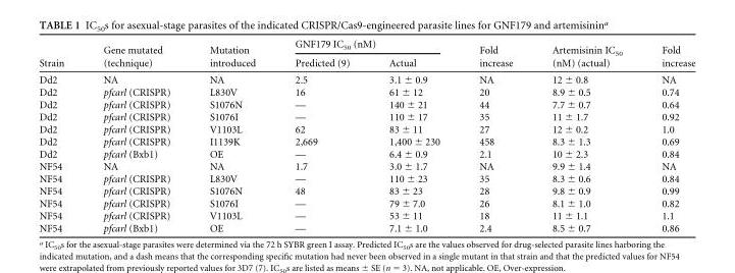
<table><thead><tr><td rowspan="2">Strain</td><td rowspan="2">Gene mutated (technique)</td><td rowspan="2">Mutation introduced</td><td colspan="2">GNF179 IC<sub>50</sub> (nM)</td><td rowspan="2">Fold increase</td><td rowspan="2">Artemisinin IC<sub>50</sub> (nM) (actual)</td><td rowspan="2">Fold increase</td></tr><tr><td>Predicted (9)</td><td>Actual</td></tr></thead><tbody><tr><td>Dd2</td><td>NA</td><td>NA</td><td>2.5</td><td>3.1 ± 0.9</td><td>NA</td><td>12 ± 0.8</td><td>NA</td></tr><tr><td>Dd2</td><td>pfcarl (CRISPR)</td><td>L830V</td><td>16</td><td>61 ± 12</td><td>20</td><td>8.9 ± 0.5</td><td>0.74</td></tr><tr><td>Dd2</td><td>pfcarl (CRISPR)</td><td>S1076N</td><td>—</td><td>140 ± 21</td><td>44</td><td>7.7 ± 0.7</td><td>0.64</td></tr><tr><td>Dd2</td><td>pfcarl (CRISPR)</td><td>S1076I</td><td>—</td><td>110 ± 17</td><td>35</td><td>11 ± 1.7</td><td>0.92</td></tr><tr><td>Dd2</td><td>pfcarl (CRISPR)</td><td>V1103L</td><td>62</td><td>83 ± 11</td><td>27</td><td>12 ± 0.2</td><td>1.0</td></tr><tr><td>Dd2</td><td>pfcarl (CRISPR)</td><td>I1139K</td><td>2,669</td><td>1,400 ± 230</td><td>458</td><td>8.3 ± 1.3</td><td>0.69</td></tr><tr><td>Dd2</td><td>pfcarl (Bxb1)</td><td>OE</td><td>—</td><td>6.4 ± 0.9</td><td>2.1</td><td>10 ± 2.3</td><td>0.84</td></tr><tr><td>NF54</td><td>NA</td><td>NA</td><td>1.7</td><td>3.0 ± 1.7</td><td>NA</td><td>9.9 ± 1.4</td><td>NA</td></tr><tr><td>NF54</td><td>pfcarl (CRISPR)</td><td>L830V</td><td>—</td><td>110 ± 23</td><td>35</td><td>8.3 ± 0.6</td><td>0.84</td></tr><tr><td>NF54</td><td>pfcarl (CRISPR)</td><td>S1076N</td><td>48</td><td>83 ± 23</td><td>28</td><td>9.8 ± 0.9</td><td>0.99</td></tr><tr><td>NF54</td><td>pfcarl (CRISPR)</td><td>S1076I</td><td>—</td><td>79 ± 7.0</td><td>26</td><td>8.1 ± 1.0</td><td>0.82</td></tr><tr><td>NF54</td><td>pfcarl (CRISPR)</td><td>V1103L</td><td>—</td><td>53 ± 11</td><td>18</td><td>11 ± 1.1</td><td>1.1</td></tr><tr><td>NF54</td><td>pfcarl (Bxb1)</td><td>OE</td><td>—</td><td>7.1 ± 1.0</td><td>2.4</td><td>8.5 ± 0.7</td><td>0.86</td></tr></tbody></table>